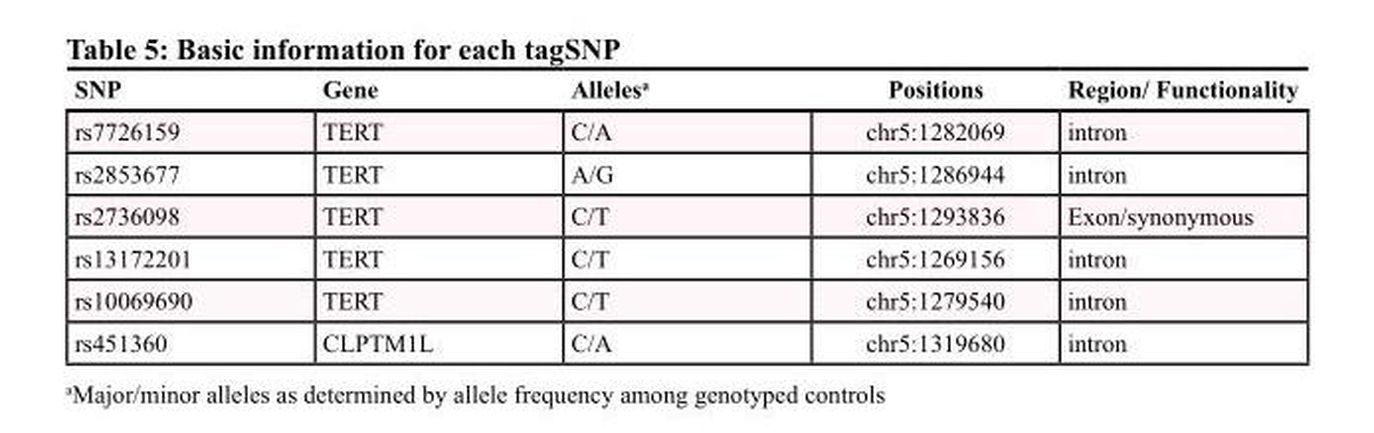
<table><thead><tr><td>SNP</td><td>Gene</td><td>Alleles<sup>a</sup></td><td>Positions</td><td>Region/ Functionality</td></tr></thead><tbody><tr><td>rs7726159</td><td>TERT</td><td>C/A</td><td>chr5:1282069</td><td>intron</td></tr><tr><td>rs2853677</td><td>TERT</td><td>A/G</td><td>chr5:1286944</td><td>intron</td></tr><tr><td>rs2736098</td><td>TERT</td><td>C/T</td><td>chr5:1293836</td><td>Exon/synonymous</td></tr><tr><td>rs13172201</td><td>TERT</td><td>C/T</td><td>chr5:1269156</td><td>intron</td></tr><tr><td>rs10069690</td><td>TERT</td><td>C/T</td><td>chr5:1279540</td><td>intron</td></tr><tr><td>rs451360</td><td>CLPTM1L</td><td>C/A</td><td>chr5:1319680</td><td>intron</td></tr></tbody></table>